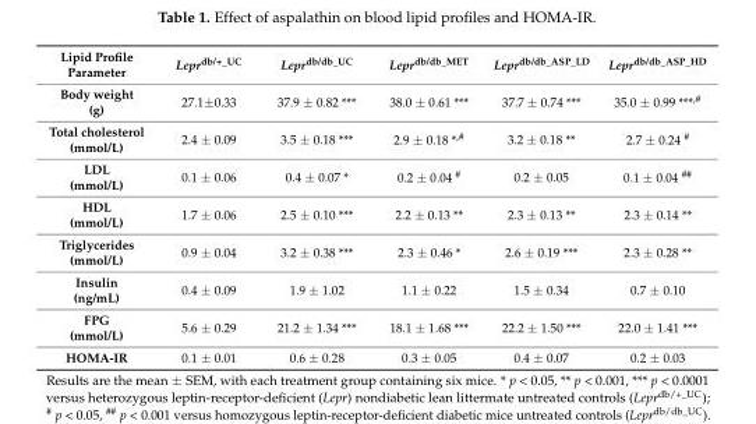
<table><thead><tr><td>Lipid Profile Parameter</td><td>Lepr<sup>db/+_UC</sup></td><td>Lepr<sup>db/db_UC</sup></td><td>Lepr<sup>db/db_MET</sup></td><td>Lepr<sup>db/db_ASP_LD</sup></td><td>Lepr<sup>db/db_ASP_HD</sup></td></tr></thead><tbody><tr><td>Body weight (g)</td><td>27.1±0.33</td><td>37.9 ± 0.82 ***</td><td>38.0 ± 0.61 ***</td><td>37.7 ± 0.74 ***</td><td>35.0 ± 0.99 ***<sup>,#</sup></td></tr><tr><td>Total cholesterol (mmol/L)</td><td>2.4 ± 0.09</td><td>3.5 ± 0.18 ***</td><td>2.9 ± 0.18 *<sup>,#</sup></td><td>3.2 ± 0.18 **</td><td>2.7 ± 0.24 <sup>#</sup></td></tr><tr><td>LDL (mmol/L)</td><td>0.1 ± 0.06</td><td>0.4 ± 0.07 *</td><td>0.2 ± 0.04 <sup>#</sup></td><td>0.2 ± 0.05</td><td>0.1 ± 0.04 <sup>##</sup></td></tr><tr><td>HDL (mmol/L)</td><td>1.7 ± 0.06</td><td>2.5 ± 0.10 ***</td><td>2.2 ± 0.13 **</td><td>2.3 ± 0.13 **</td><td>2.3 ± 0.14 **</td></tr><tr><td>Triglycerides (mmol/L)</td><td>0.9 ± 0.04</td><td>3.2 ± 0.38 ***</td><td>2.3 ± 0.46 *</td><td>2.6 ± 0.19 ***</td><td>2.3 ± 0.28 **</td></tr><tr><td>Insulin (ng/mL)</td><td>0.4 ± 0.09</td><td>1.9 ± 1.02</td><td>1.1 ± 0.22</td><td>1.5 ± 0.34</td><td>0.7 ± 0.10</td></tr><tr><td>FPG (mmol/L)</td><td>5.6 ± 0.29</td><td>21.2 ± 1.34 ***</td><td>18.1 ± 1.68 ***</td><td>22.2 ± 1.50 ***</td><td>22.0 ± 1.41 ***</td></tr><tr><td>HOMA-IR</td><td>0.1 ± 0.01</td><td>0.6 ± 0.28</td><td>0.3 ± 0.05</td><td>0.4 ± 0.07</td><td>0.2 ± 0.03</td></tr></tbody></table>